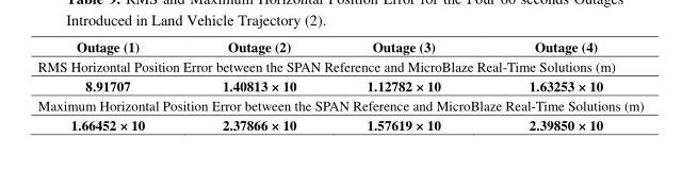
<table><thead><tr><td>Outage (1)</td><td>Outage (2)</td><td>Outage (3)</td><td>Outage (4)</td></tr></thead><tbody><tr><td colspan="4">RMS Horizontal Position Error between the SPAN Reference and MicroBlaze Real-Time Solutions (m)</td></tr><tr><td>8.91707</td><td>1.40813 × 10</td><td>1.12782 × 10</td><td>1.63253 × 10</td></tr><tr><td colspan="4">Maximum Horizontal Position Error between the SPAN Reference and MicroBlaze Real-Time Solutions (m)</td></tr><tr><td>1.66452 × 10</td><td>2.37866 × 10</td><td>1.57619 × 10</td><td>2.39850 × 10</td></tr></tbody></table>